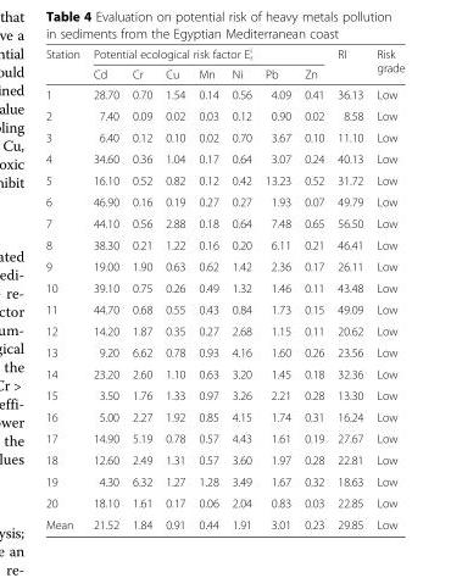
<table><thead><tr><td rowspan="2">Station</td><td colspan="7">Potential ecological risk factor E<sup>i</sup> <sub>r</sub></td><td rowspan="2">RI</td><td rowspan="2">Risk grade</td></tr><tr><td>Cd</td><td>Cr</td><td>Cu</td><td>Mn</td><td>Ni</td><td>Pb</td><td>Zn</td></tr></thead><tbody><tr><td>1</td><td>28.70</td><td>0.70</td><td>1.54</td><td>0.14</td><td>0.56</td><td>4.09</td><td>0.41</td><td>36.13</td><td>Low</td></tr><tr><td>2</td><td>7.40</td><td>0.09</td><td>0.02</td><td>0.03</td><td>0.12</td><td>0.90</td><td>0.02</td><td>8.58</td><td>Low</td></tr><tr><td>3</td><td>6.40</td><td>0.12</td><td>0.10</td><td>0.02</td><td>0.70</td><td>3.67</td><td>0.10</td><td>11.10</td><td>Low</td></tr><tr><td>4</td><td>34.60</td><td>0.36</td><td>1.04</td><td>0.17</td><td>0.64</td><td>3.07</td><td>0.24</td><td>40.13</td><td>Low</td></tr><tr><td>5</td><td>16.10</td><td>0.52</td><td>0.82</td><td>0.12</td><td>0.42</td><td>13.23</td><td>0.52</td><td>31.72</td><td>Low</td></tr><tr><td>6</td><td>46.90</td><td>0.16</td><td>0.19</td><td>0.27</td><td>0.27</td><td>1.93</td><td>0.07</td><td>49.79</td><td>Low</td></tr><tr><td>7</td><td>44.10</td><td>0.56</td><td>2.88</td><td>0.18</td><td>0.64</td><td>7.48</td><td>0.65</td><td>56.50</td><td>Low</td></tr><tr><td>8</td><td>38.30</td><td>0.21</td><td>1.22</td><td>0.16</td><td>0.20</td><td>6.11</td><td>0.21</td><td>46.41</td><td>Low</td></tr><tr><td>9</td><td>19.00</td><td>1.90</td><td>0.63</td><td>0.62</td><td>1.42</td><td>2.36</td><td>0.17</td><td>26.11</td><td>Low</td></tr><tr><td>10</td><td>39.10</td><td>0.75</td><td>0.26</td><td>0.49</td><td>1.32</td><td>1.46</td><td>0.11</td><td>43.48</td><td>Low</td></tr><tr><td>11</td><td>44.70</td><td>0.68</td><td>0.55</td><td>0.43</td><td>0.84</td><td>1.73</td><td>0.15</td><td>49.09</td><td>Low</td></tr><tr><td>12</td><td>14.20</td><td>1.87</td><td>0.35</td><td>0.27</td><td>2.68</td><td>1.15</td><td>0.11</td><td>20.62</td><td>Low</td></tr><tr><td>13</td><td>9.20</td><td>6.62</td><td>0.78</td><td>0.93</td><td>4.16</td><td>1.60</td><td>0.26</td><td>23.56</td><td>Low</td></tr><tr><td>14</td><td>23.20</td><td>2.60</td><td>1.10</td><td>0.63</td><td>3.20</td><td>1.45</td><td>0.18</td><td>32.36</td><td>Low</td></tr><tr><td>15</td><td>3.50</td><td>1.76</td><td>1.33</td><td>0.97</td><td>3.26</td><td>2.21</td><td>0.28</td><td>13.30</td><td>Low</td></tr><tr><td>16</td><td>5.00</td><td>2.27</td><td>1.92</td><td>0.85</td><td>4.15</td><td>1.74</td><td>0.31</td><td>16.24</td><td>Low</td></tr><tr><td>17</td><td>14.90</td><td>5.19</td><td>0.78</td><td>0.57</td><td>4.43</td><td>1.61</td><td>0.19</td><td>27.67</td><td>Low</td></tr><tr><td>18</td><td>12.60</td><td>2.49</td><td>1.31</td><td>0.57</td><td>3.60</td><td>1.97</td><td>0.28</td><td>22.81</td><td>Low</td></tr><tr><td>19</td><td>4.30</td><td>6.32</td><td>1.27</td><td>1.28</td><td>3.49</td><td>1.67</td><td>0.32</td><td>18.63</td><td>Low</td></tr><tr><td>20</td><td>18.10</td><td>1.61</td><td>0.17</td><td>0.06</td><td>2.04</td><td>0.83</td><td>0.03</td><td>22.85</td><td>Low</td></tr><tr><td>Mean</td><td>21.52</td><td>1.84</td><td>0.91</td><td>0.44</td><td>1.91</td><td>3.01</td><td>0.23</td><td>29.85</td><td>Low</td></tr></tbody></table>